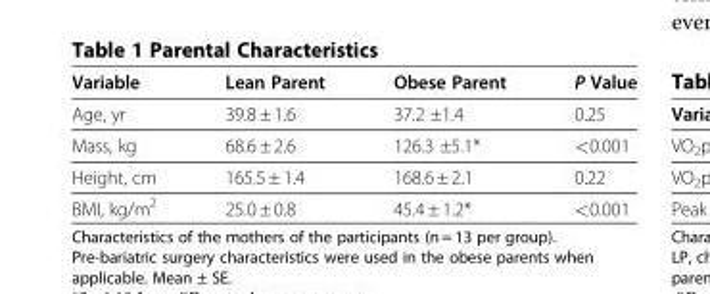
<table><thead><tr><td>Variable</td><td>Lean Parent</td><td>Obese Parent</td><td>P Value</td></tr></thead><tbody><tr><td>Age, yr</td><td>39.8 ± 1.6</td><td>37.2 ±1.4</td><td>0.25</td></tr><tr><td>Mass, kg</td><td>68.6 ± 2.6</td><td>126.3 ±5.1*</td><td>&lt;0.001</td></tr><tr><td>Height, cm</td><td>165.5 ± 1.4</td><td>168.6 ± 2.1</td><td>0.22</td></tr><tr><td>BMI, kg/m<sup>2</sup></td><td>25.0 ± 0.8</td><td>45.4 ± 1.2*</td><td>&lt;0.001</td></tr></tbody></table>